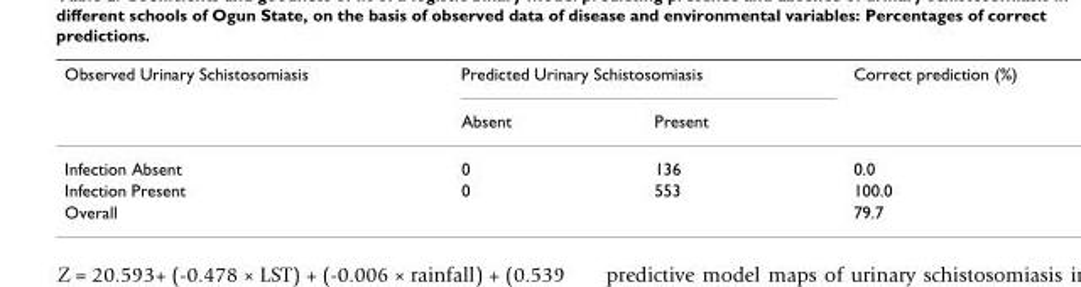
<table><thead><tr><td rowspan="2">Observed Urinary Schistosomiasis</td><td colspan="2">Predicted Urinary Schistosomiasis</td><td rowspan="2">Correct prediction (%)</td></tr><tr><td>Absent</td><td>Present</td></tr></thead><tbody><tr><td>Infection Absent</td><td>0</td><td>136</td><td>0.0</td></tr><tr><td>Infection Present</td><td>0</td><td>553</td><td>100.0</td></tr><tr><td>Overall</td><td></td><td></td><td>79.7</td></tr></tbody></table>